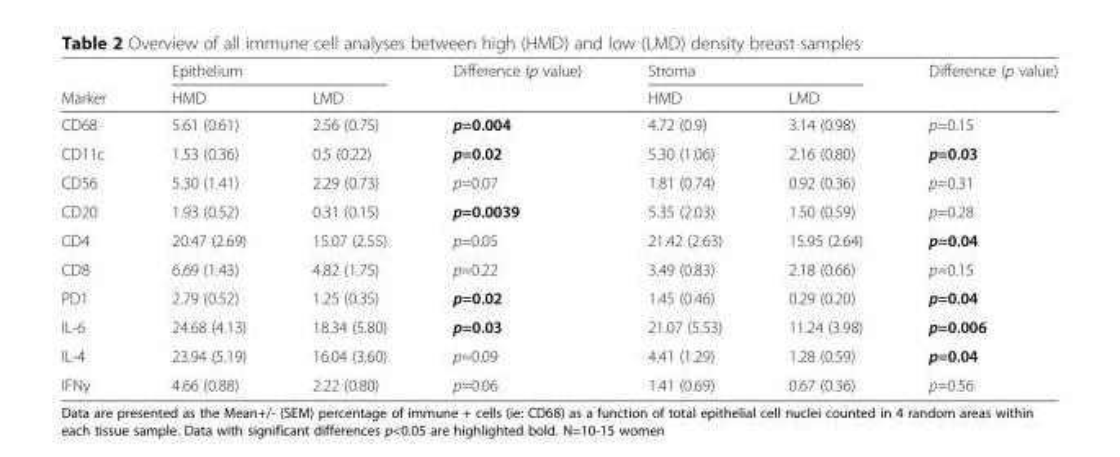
<table><thead><tr><td rowspan="2">Marker</td><td colspan="2">Epithelium</td><td rowspan="2">Difference (p value)</td><td colspan="2">Stroma</td><td rowspan="2">Difference (p value)</td></tr><tr><td>HMD</td><td>LMD</td><td>HMD</td><td>LMD</td></tr></thead><tbody><tr><td>CD68</td><td>5.61 (0.61)</td><td>2.56 (0.75)</td><td>p=0.004</td><td>4.72 (0.9)</td><td>3.14 (0.98)</td><td>p=0.15</td></tr><tr><td>CD11c</td><td>1.53 (0.36)</td><td>0.5 (0.22)</td><td>p=0.02</td><td>5.30 (1.06)</td><td>2.16 (0.80)</td><td>p=0.03</td></tr><tr><td>CD56</td><td>5.30 (1.41)</td><td>2.29 (0.73)</td><td>p=0.07</td><td>1.81 (0.74)</td><td>0.92 (0.36)</td><td>p=0.31</td></tr><tr><td>CD20</td><td>1.93 (0.52)</td><td>0.31 (0.15)</td><td>p=0.0039</td><td>5.35 (2.03)</td><td>1.50 (0.59)</td><td>p=0.28</td></tr><tr><td>CD4</td><td>20.47 (2.69)</td><td>15.07 (2.55)</td><td>p=0.05</td><td>21.42 (2.63)</td><td>15.95 (2.64)</td><td>p=0.04</td></tr><tr><td>CD8</td><td>6.69 (1.43)</td><td>4.82 (1.75)</td><td>p=0.22</td><td>3.49 (0.83)</td><td>2.18 (0.66)</td><td>p=0.15</td></tr><tr><td>PD1</td><td>2.79 (0.52)</td><td>1.25 (0.35)</td><td>p=0.02</td><td>1.45 (0.46)</td><td>0.29 (0.20)</td><td>p=0.04</td></tr><tr><td>IL-6</td><td>24.68 (4.13)</td><td>18.34 (5.80)</td><td>p=0.03</td><td>21.07 (5.53)</td><td>11.24 (3.98)</td><td>p=0.006</td></tr><tr><td>IL-4</td><td>23.94 (5.19)</td><td>16.04 (3.60)</td><td>p=0.09</td><td>4.41 (1.29)</td><td>1.28 (0.59)</td><td>p=0.04</td></tr><tr><td>IFNγ</td><td>4.66 (0.88)</td><td>2.22 (0.80)</td><td>p=0.06</td><td>1.41 (0.69)</td><td>0.67 (0.36)</td><td>p=0.56</td></tr></tbody></table>